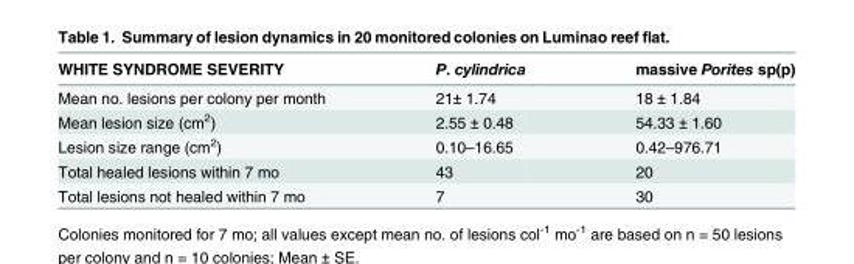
<table><thead><tr><td>WHITE SYNDROME SEVERITY</td><td>P. cylindrica</td><td>massive Porites sp(p)</td></tr></thead><tbody><tr><td>Mean no. lesions per colony per month</td><td>21± 1.74</td><td>18 ± 1.84</td></tr><tr><td>Mean lesion size (cm<sup>2</sup>)</td><td>2.55 ± 0.48</td><td>54.33 ± 1.60</td></tr><tr><td>Lesion size range (cm<sup>2</sup>)</td><td>0.10–16.65</td><td>0.42–976.71</td></tr><tr><td>Total healed lesions within 7 mo</td><td>43</td><td>20</td></tr><tr><td>Total lesions not healed within 7 mo</td><td>7</td><td>30</td></tr></tbody></table>